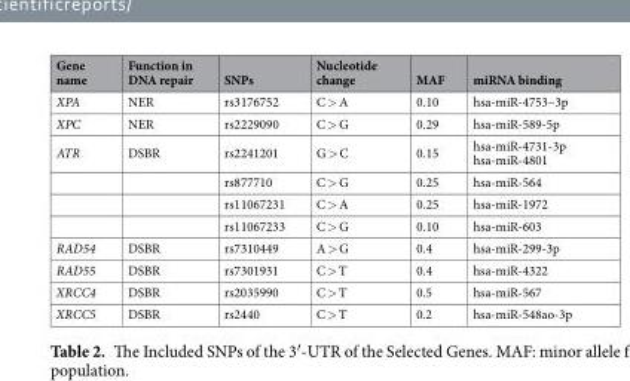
<table><thead><tr><td>Gene name</td><td>Function in DNA repair</td><td>SNPs</td><td>Nucleotide change</td><td>MAF</td><td>miRNA binding</td></tr></thead><tbody><tr><td>XPA</td><td>NER</td><td>rs3176752</td><td>C &gt; A</td><td>0.10</td><td>hsa-miR-4753–3p</td></tr><tr><td>XPC</td><td>NER</td><td>rs2229090</td><td>C &gt; G</td><td>0.29</td><td>hsa-miR-589-5p</td></tr><tr><td rowspan="4">ATR</td><td>DSBR</td><td>rs2241201</td><td>G &gt; C</td><td>0.15</td><td>hsa-miR-4731-3p hsa-miR-4801</td></tr><tr><td></td><td>rs877710</td><td>C &gt; G</td><td>0.25</td><td>hsa-miR-564</td></tr><tr><td></td><td>rs11067231</td><td>C &gt; A</td><td>0.25</td><td>hsa-miR-1972</td></tr><tr><td></td><td>rs11067233</td><td>C &gt; G</td><td>0.10</td><td>hsa-miR-603</td></tr><tr><td>RAD54</td><td>DSBR</td><td>rs7310449</td><td>A &gt; G</td><td>0.4</td><td>hsa-miR-299-3p</td></tr><tr><td>RAD55</td><td>DSBR</td><td>rs7301931</td><td>C &gt; T</td><td>0.4</td><td>hsa-miR-4322</td></tr><tr><td>XRCC4</td><td>DSBR</td><td>rs2035990</td><td>C &gt; T</td><td>0.5</td><td>hsa-miR-567</td></tr><tr><td>XRCC5</td><td>DSBR</td><td>rs2440</td><td>C &gt; T</td><td>0.2</td><td>hsa-miR-548ao-3p</td></tr></tbody></table>